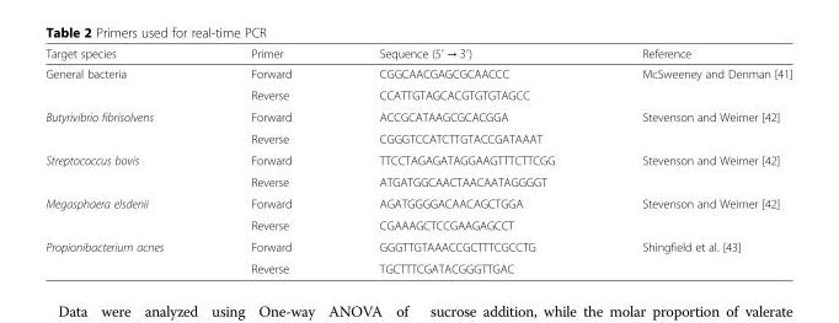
<table><thead><tr><td>Target species</td><td>Primer</td><td>Sequence (5′ → 3′)</td><td>Reference</td></tr></thead><tbody><tr><td rowspan="2">General bacteria</td><td>Forward</td><td>CGGCAACGAGCGCAACCC</td><td rowspan="2">McSweeney and Denman [41]</td></tr><tr><td>Reverse</td><td>CCATTGTAGCACGTGTGTAGCC</td></tr><tr><td rowspan="2">Butyrivibrio fibrisolvens</td><td>Forward</td><td>ACCGCATAAGCGCACGGA</td><td rowspan="2">Stevenson and Weimer [42]</td></tr><tr><td>Reverse</td><td>CGGGTCCATCTTGTACCGATAAAT</td></tr><tr><td rowspan="2">Streptococcus bovis</td><td>Forward</td><td>TTCCTAGAGATAGGAAGTTTCTTCGG</td><td rowspan="2">Stevenson and Weimer [42]</td></tr><tr><td>Reverse</td><td>ATGATGGCAACTAACAATAGGGGT</td></tr><tr><td rowspan="2">Megasphaera elsdenii</td><td>Forward</td><td>AGATGGGGACAACAGCTGGA</td><td rowspan="2">Stevenson and Weimer [42]</td></tr><tr><td>Reverse</td><td>CGAAAGCTCCGAAGAGCCT</td></tr><tr><td rowspan="2">Propionibacterium acnes</td><td>Forward</td><td>GGGTTGTAAACCGCTTTCGCCTG</td><td rowspan="2">Shingfield et al. [43]</td></tr><tr><td>Reverse</td><td>TGCTTTCGATACGGGTTGAC</td></tr></tbody></table>